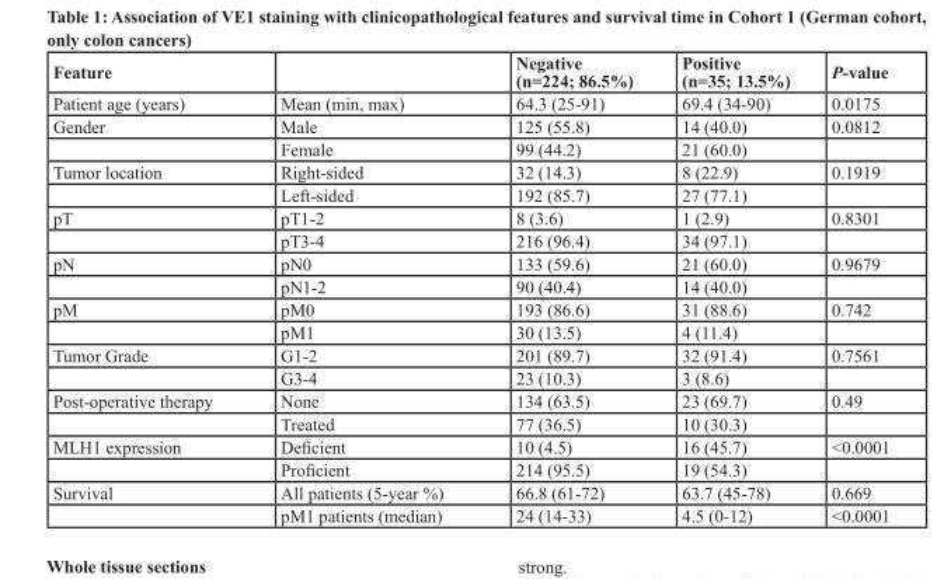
<table><thead><tr><td>Feature</td><td></td><td>Negative (n=224; 86.5%)</td><td>Positive (n=35; 13.5%)</td><td>P-value</td></tr></thead><tbody><tr><td>Patient age (years)</td><td>Mean (min, max)</td><td>64.3 (25-91)</td><td>69.4 (34-90)</td><td>0.0175</td></tr><tr><td rowspan="2">Gender</td><td>Male</td><td>125 (55.8)</td><td>14 (40.0)</td><td>0.0812</td></tr><tr><td>Female</td><td>99 (44.2)</td><td>21 (60.0)</td><td></td></tr><tr><td rowspan="2">Tumor location</td><td>Right-sided</td><td>32 (14.3)</td><td>8 (22.9)</td><td>0.1919</td></tr><tr><td>Left-sided</td><td>192 (85.7)</td><td>27 (77.1)</td><td></td></tr><tr><td rowspan="2">pT</td><td>pT1-2</td><td>8 (3.6)</td><td>1 (2.9)</td><td>0.8301</td></tr><tr><td>pT3-4</td><td>216 (96.4)</td><td>34 (97.1)</td><td></td></tr><tr><td rowspan="2">pN</td><td>pN0</td><td>133 (59.6)</td><td>21 (60.0)</td><td>0.9679</td></tr><tr><td>pN1-2</td><td>90 (40.4)</td><td>14 (40.0)</td><td></td></tr><tr><td rowspan="2">pM</td><td>pM0</td><td>193 (86.6)</td><td>31 (88.6)</td><td>0.742</td></tr><tr><td>pM1</td><td>30 (13.5)</td><td>4 (11.4)</td><td></td></tr><tr><td rowspan="2">Tumor Grade</td><td>G1-2</td><td>201 (89.7)</td><td>32 (91.4)</td><td>0.7561</td></tr><tr><td>G3-4</td><td>23 (10.3)</td><td>3 (8.6)</td><td></td></tr><tr><td rowspan="2">Post-operative therapy</td><td>None</td><td>134 (63.5)</td><td>23 (69.7)</td><td>0.49</td></tr><tr><td>Treated</td><td>77 (36.5)</td><td>10 (30.3)</td><td></td></tr><tr><td rowspan="2">MLH1 expression</td><td>Deficient</td><td>10 (4.5)</td><td>16 (45.7)</td><td>&lt;0.0001</td></tr><tr><td>Proficient</td><td>214 (95.5)</td><td>19 (54.3)</td><td></td></tr><tr><td rowspan="2">Survival</td><td>All patients (5-year %)</td><td>66.8 (61-72)</td><td>63.7 (45-78)</td><td>0.669</td></tr><tr><td>pM1 patients (median)</td><td>24 (14-33)</td><td>4.5 (0-12)</td><td>&lt;0.0001</td></tr></tbody></table>